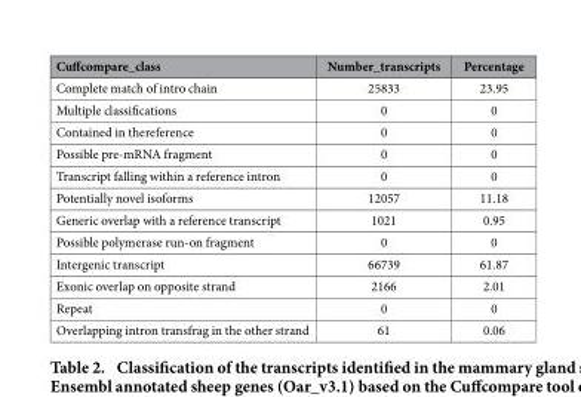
<table><thead><tr><td>Cuffcompare_class</td><td>Number_transcripts</td><td>Percentage</td></tr></thead><tbody><tr><td>Complete match of intro chain</td><td>25833</td><td>23.95</td></tr><tr><td>Multiple classifications</td><td>0</td><td>0</td></tr><tr><td>Contained in thereference</td><td>0</td><td>0</td></tr><tr><td>Possible pre-mRNA fragment</td><td>0</td><td>0</td></tr><tr><td>Transcript falling within a reference intron</td><td>0</td><td>0</td></tr><tr><td>Potentially novel isoforms</td><td>12057</td><td>11.18</td></tr><tr><td>Generic overlap with a reference transcript</td><td>1021</td><td>0.95</td></tr><tr><td>Possible polymerase run-on fragment</td><td>0</td><td>0</td></tr><tr><td>Intergenic transcript</td><td>66739</td><td>61.87</td></tr><tr><td>Exonic overlap on opposite strand</td><td>2166</td><td>2.01</td></tr><tr><td>Repeat</td><td>0</td><td>0</td></tr><tr><td>Overlapping intron transfrag in the other strand</td><td>61</td><td>0.06</td></tr></tbody></table>